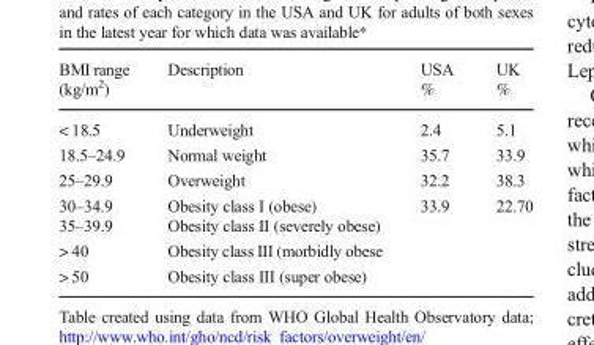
<table><thead><tr><td>BMI range (kg/m<sup>2</sup>)</td><td>Description</td><td>USA %</td><td>UK %</td></tr></thead><tbody><tr><td>&lt; 18.5</td><td>Underweight</td><td>2.4</td><td>5.1</td></tr><tr><td>18.5–24.9</td><td>Normal weight</td><td>35.7</td><td>33.9</td></tr><tr><td>25–29.9</td><td>Overweight</td><td>32.2</td><td>38.3</td></tr><tr><td>30–34.9</td><td>Obesity class I (obese)</td><td rowspan="4">33.9</td><td rowspan="4">22.70</td></tr><tr><td>35–39.9</td><td>Obesity class II (severely obese)</td></tr><tr><td>&gt; 40</td><td>Obesity class III (morbidly obese</td></tr><tr><td>&gt; 50</td><td>Obesity class III (super obese)</td></tr></tbody></table>